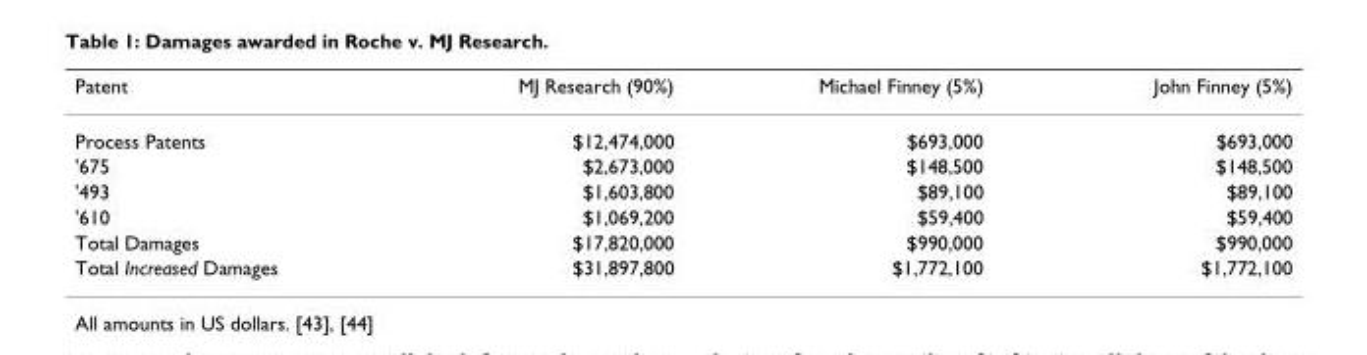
<table><thead><tr><td>Patent</td><td>MJ Research (90%)</td><td>Michael Finney (5%)</td><td>John Finney (5%)</td></tr></thead><tbody><tr><td>Process Patents</td><td>$12,474,000</td><td>$693,000</td><td>$693,000</td></tr><tr><td>&#x27;675</td><td>$2,673,000</td><td>$148,500</td><td>$148,500</td></tr><tr><td>&#x27;493</td><td>$1,603,800</td><td>$89,100</td><td>$89,100</td></tr><tr><td>&#x27;610</td><td>$1,069,200</td><td>$59,400</td><td>$59,400</td></tr><tr><td>Total Damages</td><td>$17,820,000</td><td>$990,000</td><td>$990,000</td></tr><tr><td>Total Increased Damages</td><td>$31,897,800</td><td>$1,772,100</td><td>$1,772,100</td></tr></tbody></table>